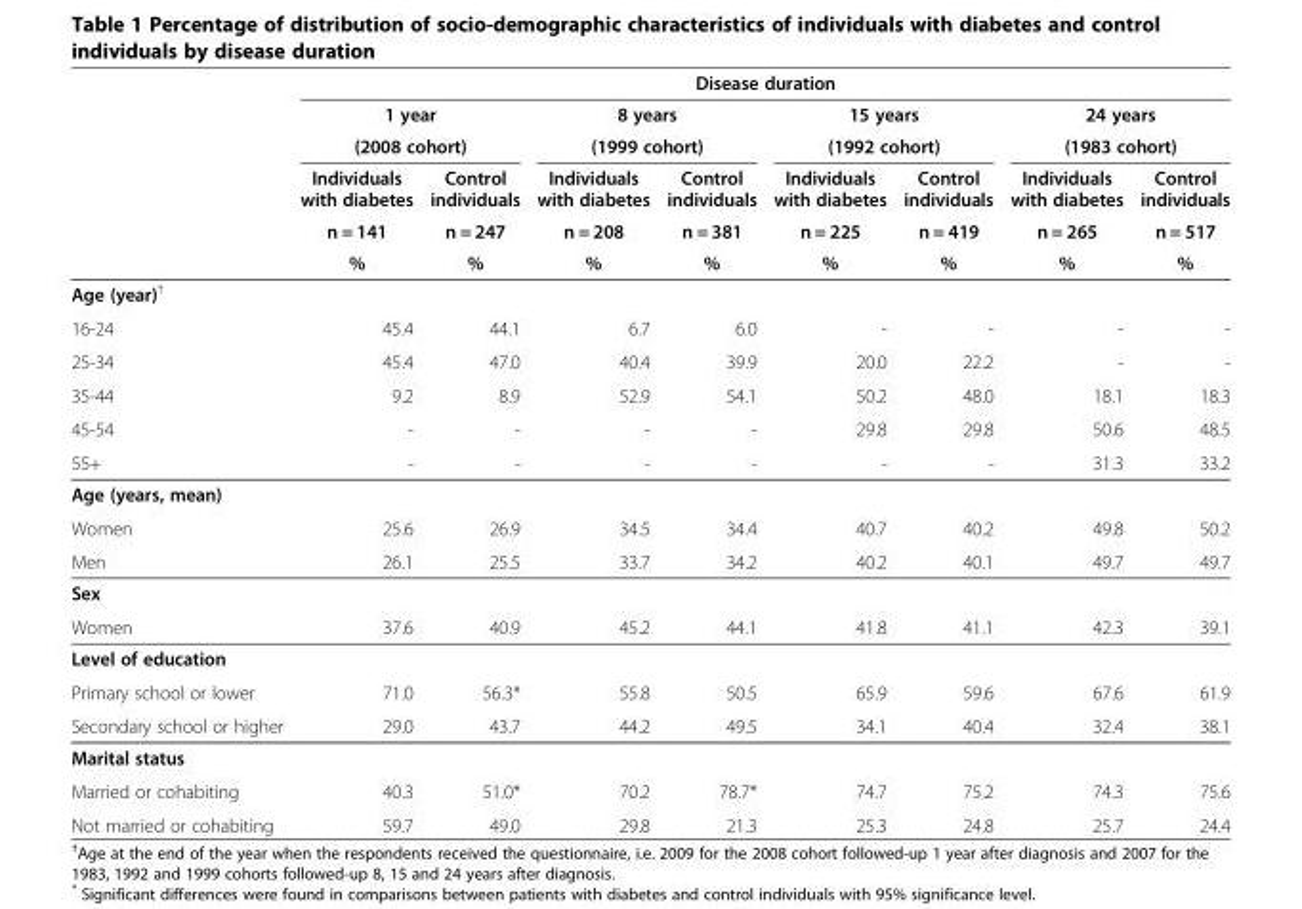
<table><thead><tr><td rowspan="6"></td><td colspan="8">Disease duration</td></tr><tr><td rowspan="2" colspan="2">1 year (2008 cohort)</td><td rowspan="2" colspan="2">8 years (1999 cohort)</td><td rowspan="2" colspan="2">15 years (1992 cohort)</td><td rowspan="2" colspan="2">24 years (1983 cohort)</td></tr><tr></tr><tr><td rowspan="3">Individuals with diabetes n = 141 %</td><td rowspan="3">Control individuals n = 247 %</td><td rowspan="3">Individuals with diabetes n = 208 %</td><td rowspan="3">Control individuals n = 381 %</td><td rowspan="3">Individuals with diabetes n = 225 %</td><td rowspan="3">Control individuals n = 419 %</td><td rowspan="3">Individuals with diabetes n = 265 %</td><td rowspan="3">Control individuals n = 517 %</td></tr><tr></tr><tr></tr></thead><tbody><tr><td colspan="9">Age (year)<sup>†</sup></td></tr><tr><td>16-24</td><td>45.4</td><td>44.1</td><td>6.7</td><td>6.0</td><td>-</td><td>-</td><td>-</td><td>-</td></tr><tr><td>25-34</td><td>45.4</td><td>47.0</td><td>40.4</td><td>39.9</td><td>20.0</td><td>22.2</td><td>-</td><td>-</td></tr><tr><td>35-44</td><td>9.2</td><td>8.9</td><td>52.9</td><td>54.1</td><td>50.2</td><td>48.0</td><td>18.1</td><td>18.3</td></tr><tr><td>45-54</td><td>-</td><td>-</td><td>-</td><td>-</td><td>29.8</td><td>29.8</td><td>50.6</td><td>48.5</td></tr><tr><td>55+</td><td>-</td><td>-</td><td>-</td><td>-</td><td>-</td><td>-</td><td>31.3</td><td>33.2</td></tr><tr><td colspan="9">Age (years, mean)</td></tr><tr><td>Women</td><td>25.6</td><td>26.9</td><td>34.5</td><td>34.4</td><td>40.7</td><td>40.2</td><td>49.8</td><td>50.2</td></tr><tr><td>Men</td><td>26.1</td><td>25.5</td><td>33.7</td><td>34.2</td><td>40.2</td><td>40.1</td><td>49.7</td><td>49.7</td></tr><tr><td colspan="9">Sex</td></tr><tr><td>Women</td><td>37.6</td><td>40.9</td><td>45.2</td><td>44.1</td><td>41.8</td><td>41.1</td><td>42.3</td><td>39.1</td></tr><tr><td colspan="9">Level of education</td></tr><tr><td>Primary school or lower</td><td>71.0</td><td>56.3*</td><td>55.8</td><td>50.5</td><td>65.9</td><td>59.6</td><td>67.6</td><td>61.9</td></tr><tr><td>Secondary school or higher</td><td>29.0</td><td>43.7</td><td>44.2</td><td>49.5</td><td>34.1</td><td>40.4</td><td>32.4</td><td>38.1</td></tr><tr><td colspan="9">Marital status</td></tr><tr><td>Married or cohabiting</td><td>40.3</td><td>51.0*</td><td>70.2</td><td>78.7*</td><td>74.7</td><td>75.2</td><td>74.3</td><td>75.6</td></tr><tr><td>Not married or cohabiting</td><td>59.7</td><td>49.0</td><td>29.8</td><td>21.3</td><td>25.3</td><td>24.8</td><td>25.7</td><td>24.4</td></tr></tbody></table>